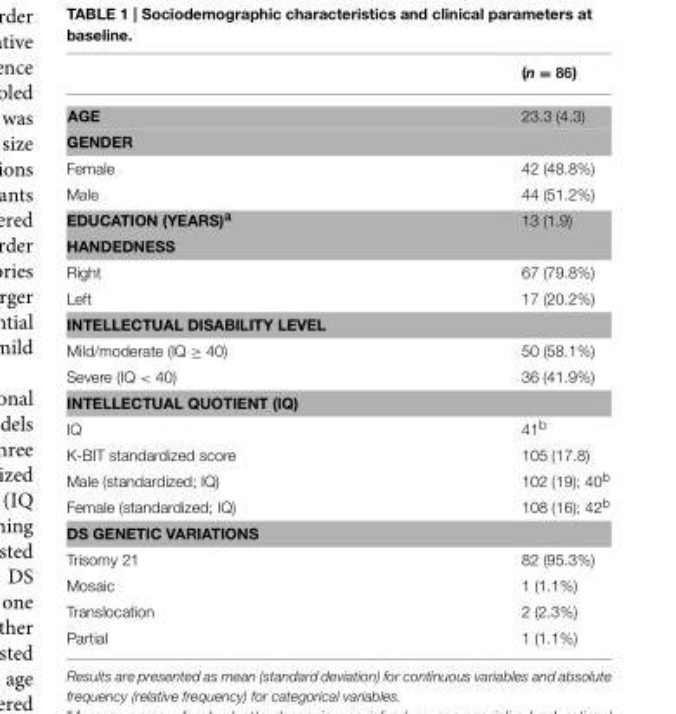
<table><thead><tr><td></td><td>(n = 86)</td></tr></thead><tbody><tr><td>AGE</td><td>23.3 (4.3)</td></tr><tr><td colspan="2">GENDER</td></tr><tr><td>Female</td><td>42 (48.8%)</td></tr><tr><td>Male</td><td>44 (51.2%)</td></tr><tr><td>EDUCATION (YEARS)<sup>a</sup></td><td>13 (1.9)</td></tr><tr><td colspan="2">HANDEDNESS</td></tr><tr><td>Right</td><td>67 (79.8%)</td></tr><tr><td>Left</td><td>17 (20.2%)</td></tr><tr><td colspan="2">INTELLECTUAL DISABILITY LEVEL</td></tr><tr><td>Mild/moderate (IQ ≥ 40)</td><td>50 (58.1%)</td></tr><tr><td>Severe (IQ &lt; 40)</td><td>36 (41.9%)</td></tr><tr><td colspan="2">INTELLECTUAL QUOTIENT (IQ)</td></tr><tr><td>IQ</td><td>41<sup>b</sup></td></tr><tr><td>K-BIT standardized score</td><td>105 (17.8)</td></tr><tr><td>Male (standardized; IQ)</td><td>102 (19); 40<sup>b</sup></td></tr><tr><td>Female (standardized; IQ)</td><td>108 (16); 42<sup>b</sup></td></tr><tr><td colspan="2">DS GENETIC VARIATIONS</td></tr><tr><td>Trisomy 21</td><td>82 (95.3%)</td></tr><tr><td>Mosaic</td><td>1 (1.1%)</td></tr><tr><td>Translocation</td><td>2 (2.3%)</td></tr><tr><td>Partial</td><td>1 (1.1%)</td></tr></tbody></table>